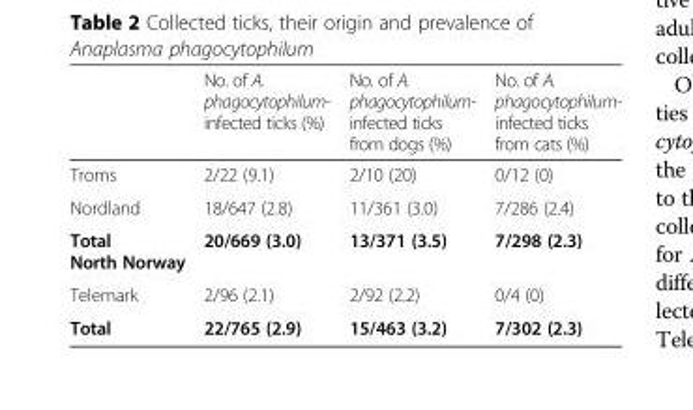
<table><thead><tr><td></td><td>No. of A. phagocytophilum- infected ticks (%)</td><td>No. of A. phagocytophilum- infected ticks from dogs (%)</td><td>No. of A. phagocytophilum- infected ticks from cats (%)</td></tr></thead><tbody><tr><td>Troms</td><td>2/22 (9.1)</td><td>2/10 (20)</td><td>0/12 (0)</td></tr><tr><td>Nordland</td><td>18/647 (2.8)</td><td>11/361 (3.0)</td><td>7/286 (2.4)</td></tr><tr><td>Total North Norway</td><td>20/669 (3.0)</td><td>13/371 (3.5)</td><td>7/298 (2.3)</td></tr><tr><td>Telemark</td><td>2/96 (2.1)</td><td>2/92 (2.2)</td><td>0/4 (0)</td></tr><tr><td>Total</td><td>22/765 (2.9)</td><td>15/463 (3.2)</td><td>7/302 (2.3)</td></tr></tbody></table>